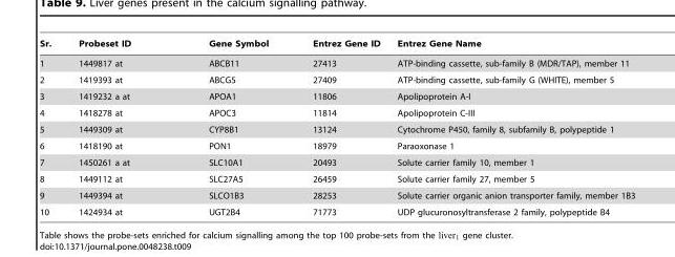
<table><thead><tr><td>Sr.</td><td>Probeset ID</td><td>Gene Symbol</td><td>Entrez Gene ID</td><td>Entrez Gene Name</td></tr></thead><tbody><tr><td>1</td><td>1449817 at</td><td>ABCB11</td><td>27413</td><td>ATP-binding cassette, sub-family B (MDR/TAP), member 11</td></tr><tr><td>2</td><td>1419393 at</td><td>ABCG5</td><td>27409</td><td>ATP-binding cassette, sub-family G (WHITE), member 5</td></tr><tr><td>3</td><td>1419232 a at</td><td>APOA1</td><td>11806</td><td>Apolipoprotein A-I</td></tr><tr><td>4</td><td>1418278 at</td><td>APOC3</td><td>11814</td><td>Apolipoprotein C-III</td></tr><tr><td>5</td><td>1449309 at</td><td>CYP8B1</td><td>13124</td><td>Cytochrome P450, family 8, subfamily B, polypeptide 1</td></tr><tr><td>6</td><td>1418190 at</td><td>PON1</td><td>18979</td><td>Paraoxonase 1</td></tr><tr><td>7</td><td>1450261 a at</td><td>SLC10A1</td><td>20493</td><td>Solute carrier family 10, member 1</td></tr><tr><td>8</td><td>1449112 at</td><td>SLC27A5</td><td>26459</td><td>Solute carrier family 27, member 5</td></tr><tr><td>9</td><td>1449394 at</td><td>SLCO1B3</td><td>28253</td><td>Solute carrier organic anion transporter family, member 1B3</td></tr><tr><td>10</td><td>1424934 at</td><td>UGT2B4</td><td>71773</td><td>UDP glucuronosyltransferase 2 family, polypeptide B4</td></tr></tbody></table>